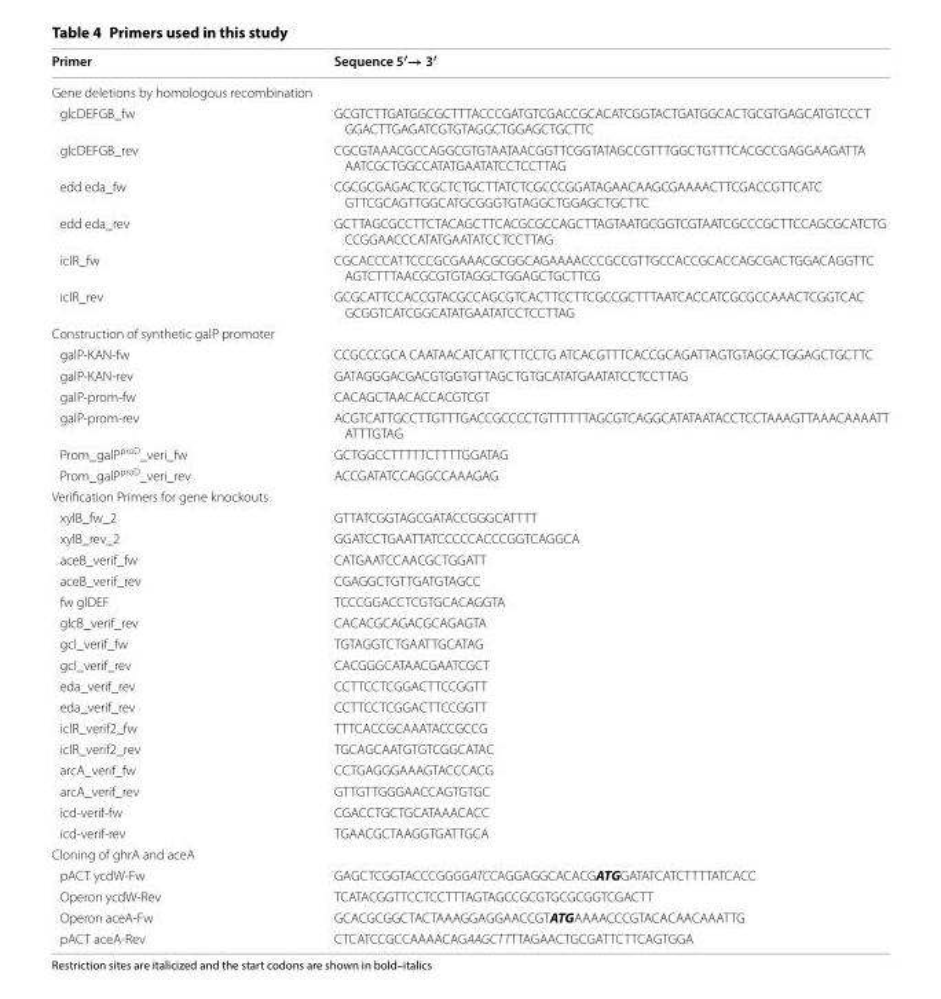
<table><thead><tr><td>Primer</td><td>Sequence 5′→ 3′</td></tr></thead><tbody><tr><td colspan="2">Gene deletions by homologous recombination</td></tr><tr><td>glcDEFGB_fw</td><td>GCGTCTTGATGGCGCTTTACCCGATGTCGACCGCACATCGGTACTGATGGCACTGCGTGAGCATGTCCCT GGACTTGAGATCGTGTAGGCTGGAGCTGCTTC</td></tr><tr><td>glcDEFGB_rev</td><td>CGCGTAAACGCCAGGCGTGTAATAACGGTTCGGTATAGCCGTTTGGCTGTTTCACGCCGAGGAAGATTA AATCGCTGGCCATATGAATATCCTCCTTAG</td></tr><tr><td>edd eda_fw</td><td>CGCGCGAGACTCGCTCTGCTTATCTCGCCCGGATAGAACAAGCGAAAACTTCGACCGTTCATC GTTCGCAGTTGGCATGCGGGTGTAGGCTGGAGCTGCTTC</td></tr><tr><td>edd eda_rev</td><td>GCTTAGCGCCTTCTACAGCTTCACGCGCCAGCTTAGTAATGCGGTCGTAATCGCCCGCTTCCAGCGCATCTG CCGGAACCCATATGAATATCCTCCTTAG</td></tr><tr><td>iclR_fw</td><td>CGCACCCATTCCCGCGAAACGCGGCAGAAAACCCGCCGTTGCCACCGCACCAGCGACTGGACAGGTTC AGTCTTTAACGCGTGTAGGCTGGAGCTGCTTCG</td></tr><tr><td>iclR_rev</td><td>GCGCATTCCACCGTACGCCAGCGTCACTTCCTTCGCCGCTTTAATCACCATCGCGCCAAACTCGGTCAC GCGGTCATCGGCATATGAATATCCTCCTTAG</td></tr><tr><td colspan="2">Construction of synthetic galP promoter</td></tr><tr><td>galP-KAN-fw</td><td>CCGCCCGCA CAATAACATCATTCTTCCTG ATCACGTTTCACCGCAGATTAGTGTAGGCTGGAGCTGCTTC</td></tr><tr><td>galP-KAN-rev</td><td>GATAGGGACGACGTGGTGTTAGCTGTGCATATGAATATCCTCCTTAG</td></tr><tr><td>galP-prom-fw</td><td>CACAGCTAACACCACGTCGT</td></tr><tr><td>galP-prom-rev</td><td>ACGTCATTGCCTTGTTTGACCGCCCCTGTTTTTTAGCGTCAGGCATATAATACCTCCTAAAGTTAAACAAAATT ATTTGTAG</td></tr><tr><td>Prom_galP<sup>proD</sup>_veri_fw</td><td>GCTGGCCTTTTTCTTTTGGATAG</td></tr><tr><td>Prom_galP<sup>proD</sup>_veri_rev</td><td>ACCGATATCCAGGCCAAAGAG</td></tr><tr><td colspan="2">Verification Primers for gene knockouts</td></tr><tr><td>xylB_fw_2</td><td>GTTATCGGTAGCGATACCGGGCATTTT</td></tr><tr><td>xylB_rev_2</td><td>GGATCCTGAATTATCCCCCACCCGGTCAGGCA</td></tr><tr><td>aceB_verif_fw</td><td>CATGAATCCAACGCTGGATT</td></tr><tr><td>aceB_verif_rev</td><td>CGAGGCTGTTGATGTAGCC</td></tr><tr><td>fw glDEF</td><td>TCCCGGACCTCGTGCACAGGTA</td></tr><tr><td>glcB_verif_rev</td><td>CACACGCAGACGCAGAGTA</td></tr><tr><td>gcl_verif_fw</td><td>TGTAGGTCTGAATTGCATAG</td></tr><tr><td>gcl_verif_rev</td><td>CACGGGCATAACGAATCGCT</td></tr><tr><td>eda_verif_rev</td><td>CCTTCCTCGGACTTCCGGTT</td></tr><tr><td>eda_verif_rev</td><td>CCTTCCTCGGACTTCCGGTT</td></tr><tr><td>iclR_verif2_fw</td><td>TTTCACCGCAAATACCGCCG</td></tr><tr><td>iclR_verif2_rev</td><td>TGCAGCAATGTGTCGGCATAC</td></tr><tr><td>arcA_verif_fw</td><td>CCTGAGGGAAAGTACCCACG</td></tr><tr><td>arcA_verif_rev</td><td>GTTGTTGGGAACCAGTGTGC</td></tr><tr><td>icd-verif-fw</td><td>CGACCTGCTGCATAAACACC</td></tr><tr><td>icd-verif-rev</td><td>TGAACGCTAAGGTGATTGCA</td></tr><tr><td colspan="2">Cloning of ghrA and aceA</td></tr><tr><td>pACT ycdW-Fw</td><td>GAGCTCGGTACCCGGGGATCCAGGAGGCACACGATGGATATCATCTTTTATCACC</td></tr><tr><td>Operon ycdW-Rev</td><td>TCATACGGTTCCTCCTTTAGTAGCCGCGTGCGCGGTCGACTT</td></tr><tr><td>Operon aceA-Fw</td><td>GCACGCGGCTACTAAAGGAGGAACCGTATGAAAACCCGTACACAACAAATTG</td></tr><tr><td>pACT aceA-Rev</td><td>CTCATCCGCCAAAACAGAAGCTTTTAGAACTGCGATTCTTCAGTGGA</td></tr></tbody></table>